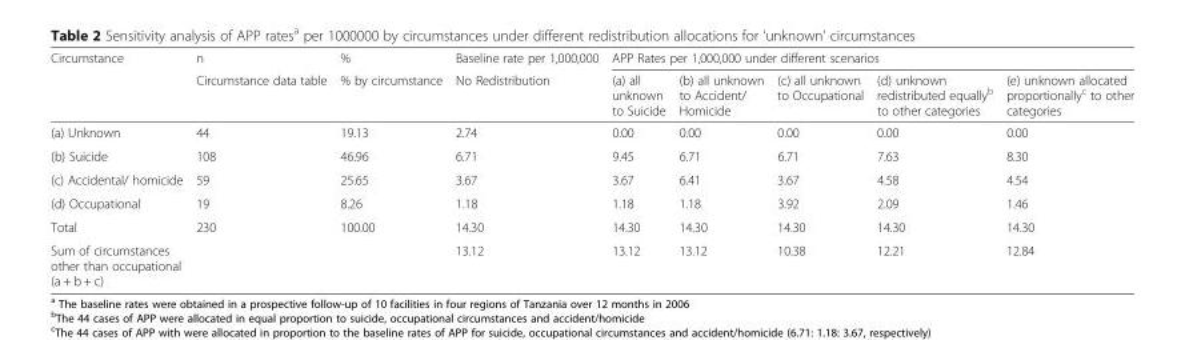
<table><thead><tr><td rowspan="2">Circumstance</td><td rowspan="2">n Circumstance data table</td><td rowspan="2">% % by circumstance</td><td rowspan="2">Baseline rate per 1,000,000 No Redistribution</td><td colspan="5">APP Rates per 1,000,000 under different scenarios</td></tr><tr><td>(a) all unknown to Suicide</td><td>(b) all unknown to Accident/ Homicide</td><td>(c) all unknown to Occupational</td><td>(d) unknown redistributed equally<sup>b</sup> to other categories</td><td>(e) unknown allocated proportionally<sup>c</sup> to other categories</td></tr></thead><tbody><tr><td>(a) Unknown</td><td>44</td><td>19.13</td><td>2.74</td><td>0.00</td><td>0.00</td><td>0.00</td><td>0.00</td><td>0.00</td></tr><tr><td>(b) Suicide</td><td>108</td><td>46.96</td><td>6.71</td><td>9.45</td><td>6.71</td><td>6.71</td><td>7.63</td><td>8.30</td></tr><tr><td>(c) Accidental/ homicide</td><td>59</td><td>25.65</td><td>3.67</td><td>3.67</td><td>6.41</td><td>3.67</td><td>4.58</td><td>4.54</td></tr><tr><td>(d) Occupational</td><td>19</td><td>8.26</td><td>1.18</td><td>1.18</td><td>1.18</td><td>3.92</td><td>2.09</td><td>1.46</td></tr><tr><td>Total</td><td>230</td><td>100.00</td><td>14.30</td><td>14.30</td><td>14.30</td><td>14.30</td><td>14.30</td><td>14.30</td></tr><tr><td>Sum of circumstances other than occupational (a + b + c)</td><td></td><td></td><td>13.12</td><td>13.12</td><td>13.12</td><td>10.38</td><td>12.21</td><td>12.84</td></tr></tbody></table>